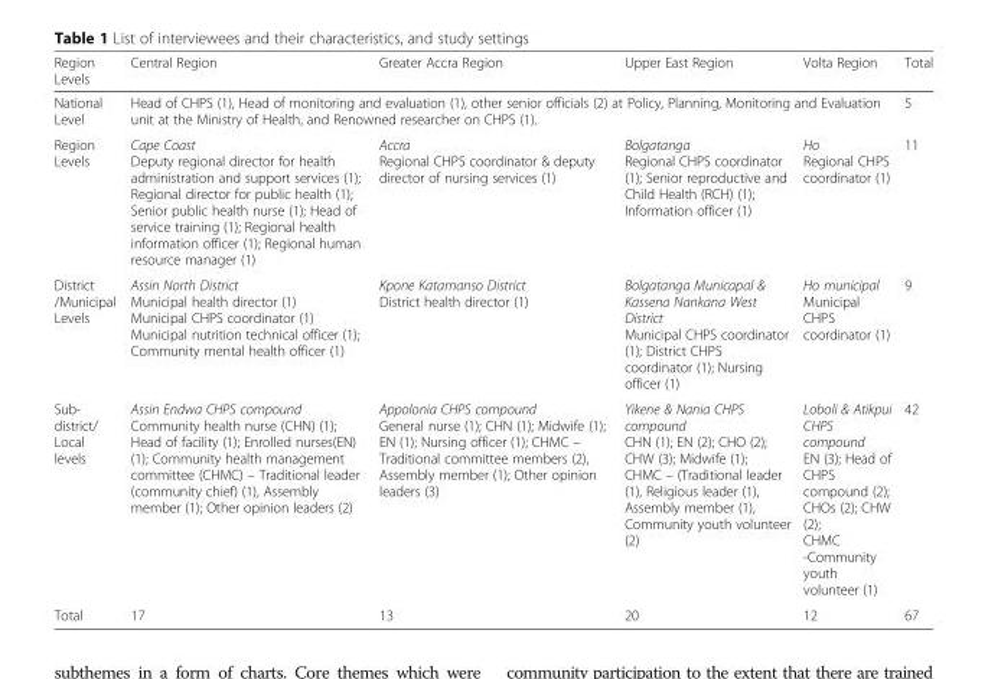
<table><thead><tr><td>Region Levels</td><td>Central Region</td><td>Greater Accra Region</td><td>Upper East Region</td><td>Volta Region</td><td>Total</td></tr></thead><tbody><tr><td>National Level</td><td colspan="4">Head of CHPS (1), Head of monitoring and evaluation (1), other senior officials (2) at Policy, Planning, Monitoring and Evaluation unit at the Ministry of Health, and Renowned researcher on CHPS (1).</td><td>5</td></tr><tr><td>Region Levels</td><td>Cape Coast Deputy regional director for health administration and support services (1); Regional director for public health (1); Senior public health nurse (1); Head of service training (1); Regional health information officer (1); Regional human resource manager (1)</td><td>Accra Regional CHPS coordinator &amp; deputy director of nursing services (1)</td><td>Bolgatanga Regional CHPS coordinator (1); Senior reproductive and Child Health (RCH) (1); Information officer (1)</td><td>Ho Regional CHPS coordinator (1)</td><td>11</td></tr><tr><td>District /Municipal Levels</td><td>Assin North District Municipal health director (1) Municipal CHPS coordinator (1) Municipal nutrition technical officer (1); Community mental health officer (1)</td><td>Kpone Katamanso District District health director (1)</td><td>Bolgatanga Municapal &amp; Kassena Nankana West District Municipal CHPS coordinator (1); District CHPS coordinator (1); Nursing officer (1)</td><td>Ho municipal Municipal CHPS coordinator (1)</td><td>9</td></tr><tr><td>Sub- district/ Local levels</td><td>Assin Endwa CHPS compound Community health nurse (CHN) (1); Head of facility (1); Enrolled nurses(EN) (1); Community health management committee (CHMC) – Traditional leader (community chief) (1), Assembly member (1); Other opinion leaders (2)</td><td>Appolonia CHPS compound General nurse (1); CHN (1); Midwife (1); EN (1); Nursing officer (1); CHMC – Traditional committee members (2), Assembly member (1); Other opinion leaders (3)</td><td>Yikene &amp; Nania CHPS compound CHN (1); EN (2); CHO (2); CHW (3); Midwife (1); CHMC – (Traditional leader (1), Religious leader (1), Assembly member (1), Community youth volunteer (2)</td><td>Loboli &amp; Atikpui CHPS compound EN (3); Head of CHPS compound (2); CHOs (2); CHW (2); CHMC -Community youth volunteer (1)</td><td>42</td></tr><tr><td>Total</td><td>17</td><td>13</td><td>20</td><td>12</td><td>67</td></tr></tbody></table>